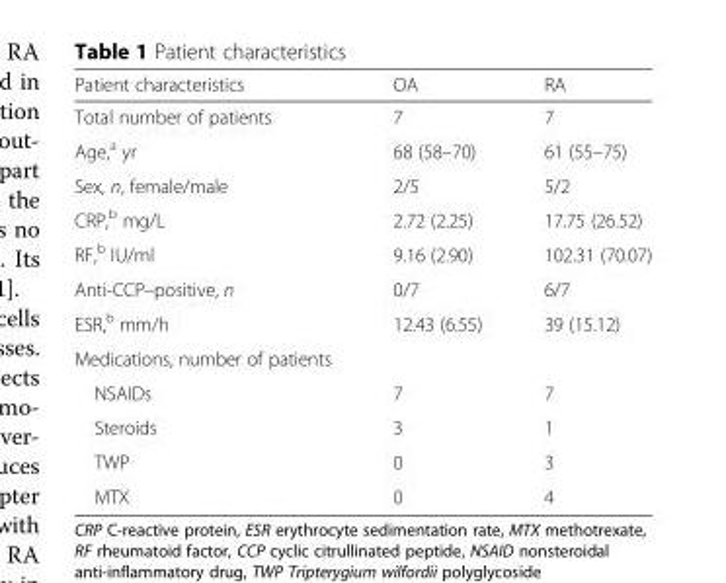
<table><thead><tr><td>Patient characteristics</td><td>OA</td><td>RA</td></tr></thead><tbody><tr><td>Total number of patients</td><td>7</td><td>7</td></tr><tr><td>Age,<sup>a</sup> yr</td><td>68 (58–70)</td><td>61 (55–75)</td></tr><tr><td>Sex, n, female/male</td><td>2/5</td><td>5/2</td></tr><tr><td>CRP,<sup>b</sup> mg/L</td><td>2.72 (2.25)</td><td>17.75 (26.52)</td></tr><tr><td>RF,<sup>b</sup> IU/ml</td><td>9.16 (2.90)</td><td>102.31 (70.07)</td></tr><tr><td>Anti-CCP–positive, n</td><td>0/7</td><td>6/7</td></tr><tr><td>ESR,<sup>b</sup> mm/h</td><td>12.43 (6.55)</td><td>39 (15.12)</td></tr><tr><td colspan="3">Medications, number of patients</td></tr><tr><td>NSAIDs</td><td>7</td><td>7</td></tr><tr><td>Steroids</td><td>3</td><td>1</td></tr><tr><td>TWP</td><td>0</td><td>3</td></tr><tr><td>MTX</td><td>0</td><td>4</td></tr></tbody></table>